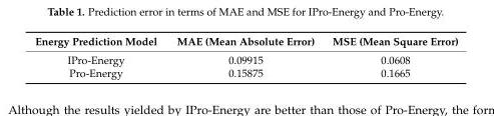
<table><thead><tr><td>Energy Prediction Model</td><td>MAE (Mean Absolute Error)</td><td>MSE (Mean Square Error)</td></tr></thead><tbody><tr><td>IPro-Energy</td><td>0.09915</td><td>0.0608</td></tr><tr><td>Pro-Energy</td><td>0.15875</td><td>0.1665</td></tr></tbody></table>